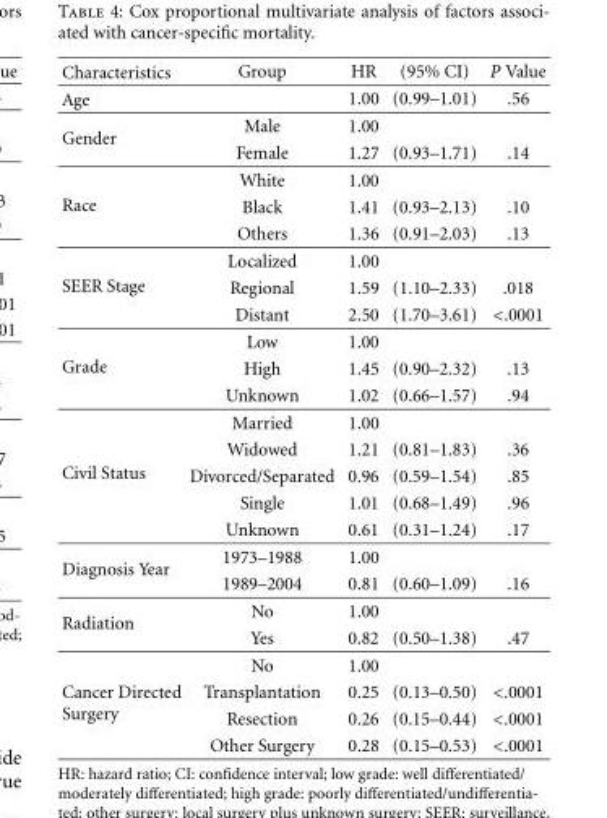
<table><thead><tr><td>Characteristics</td><td>Group</td><td>HR</td><td>(95% CI)</td><td>P Value</td></tr></thead><tbody><tr><td>Age</td><td></td><td>1.00</td><td>(0.99–1.01)</td><td>.56</td></tr><tr><td rowspan="2">Gender</td><td>Male</td><td>1.00</td><td></td><td></td></tr><tr><td>Female</td><td>1.27</td><td>(0.93–1.71)</td><td>.14</td></tr><tr><td rowspan="3">Race</td><td>White</td><td>1.00</td><td></td><td></td></tr><tr><td>Black</td><td>1.41</td><td>(0.93–2.13)</td><td>.10</td></tr><tr><td>Others</td><td>1.36</td><td>(0.91–2.03)</td><td>.13</td></tr><tr><td rowspan="3">SEER Stage</td><td>Localized</td><td>1.00</td><td></td><td></td></tr><tr><td>Regional</td><td>1.59</td><td>(1.10–2.33)</td><td>.018</td></tr><tr><td>Distant</td><td>2.50</td><td>(1.70–3.61)</td><td>&lt;.0001</td></tr><tr><td rowspan="3">Grade</td><td>Low</td><td>1.00</td><td></td><td></td></tr><tr><td>High</td><td>1.45</td><td>(0.90–2.32)</td><td>.13</td></tr><tr><td>Unknown</td><td>1.02</td><td>(0.66–1.57)</td><td>.94</td></tr><tr><td rowspan="5">Civil Status</td><td>Married</td><td>1.00</td><td></td><td></td></tr><tr><td>Widowed</td><td>1.21</td><td>(0.81–1.83)</td><td>.36</td></tr><tr><td>Divorced/Separated</td><td>0.96</td><td>(0.59–1.54)</td><td>.85</td></tr><tr><td>Single</td><td>1.01</td><td>(0.68–1.49)</td><td>.96</td></tr><tr><td>Unknown</td><td>0.61</td><td>(0.31–1.24)</td><td>.17</td></tr><tr><td rowspan="2">Diagnosis Year</td><td>1973–1988</td><td>1.00</td><td></td><td></td></tr><tr><td>1989–2004</td><td>0.81</td><td>(0.60–1.09)</td><td>.16</td></tr><tr><td rowspan="2">Radiation</td><td>No</td><td>1.00</td><td></td><td></td></tr><tr><td>Yes</td><td>0.82</td><td>(0.50–1.38)</td><td>.47</td></tr><tr><td rowspan="4">Cancer Directed Surgery</td><td>No</td><td>1.00</td><td></td><td></td></tr><tr><td>Transplantation</td><td>0.25</td><td>(0.13–0.50)</td><td>&lt;.0001</td></tr><tr><td>Resection</td><td>0.26</td><td>(0.15–0.44)</td><td>&lt;.0001</td></tr><tr><td>Other Surgery</td><td>0.28</td><td>(0.15–0.53)</td><td>&lt;.0001</td></tr></tbody></table>